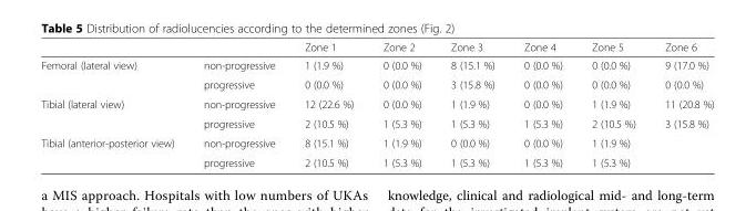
<table><thead><tr><td></td><td></td><td>Zone 1</td><td>Zone 2</td><td>Zone 3</td><td>Zone 4</td><td>Zone 5</td><td>Zone 6</td></tr></thead><tbody><tr><td rowspan="2">Femoral (lateral view)</td><td>non-progressive</td><td>1 (1.9 %)</td><td>0 (0.0 %)</td><td>8 (15.1 %)</td><td>0 (0.0 %)</td><td>0 (0.0 %)</td><td>9 (17.0 %)</td></tr><tr><td>progressive</td><td>0 (0.0 %)</td><td>0 (0.0 %)</td><td>3 (15.8 %)</td><td>0 (0.0 %)</td><td>0 (0.0 %)</td><td>0 (0.0 %)</td></tr><tr><td rowspan="2">Tibial (lateral view)</td><td>non-progressive</td><td>12 (22.6 %)</td><td>0 (0.0 %)</td><td>1 (1.9 %)</td><td>0 (0.0 %)</td><td>1 (1.9 %)</td><td>11 (20.8 %)</td></tr><tr><td>progressive</td><td>2 (10.5 %)</td><td>1 (5.3 %)</td><td>1 (5.3 %)</td><td>1 (5.3 %)</td><td>2 (10.5 %)</td><td>3 (15.8 %)</td></tr><tr><td rowspan="2">Tibial (anterior-posterior view)</td><td>non-progressive</td><td>8 (15.1 %)</td><td>1 (1.9 %)</td><td>0 (0.0 %)</td><td>0 (0.0 %)</td><td>1 (1.9 %)</td><td></td></tr><tr><td>progressive</td><td>2 (10.5 %)</td><td>1 (5.3 %)</td><td>1 (5.3 %)</td><td>1 (5.3 %)</td><td>1 (5.3 %)</td><td></td></tr></tbody></table>